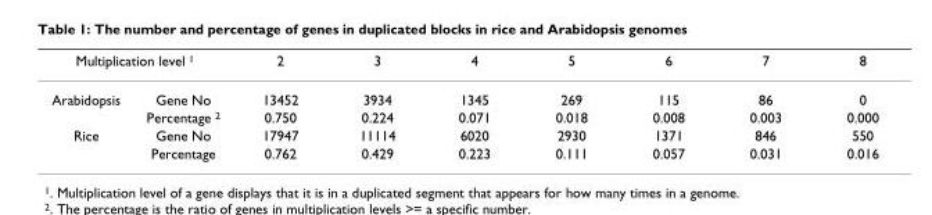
<table><thead><tr><td colspan="2">Multiplication level <sup>1</sup></td><td rowspan="2">2 13452</td><td rowspan="2">3 3934</td><td rowspan="2">4 1345</td><td rowspan="2">5 269</td><td rowspan="2">6 115</td><td rowspan="2">7 86</td><td rowspan="2">8 0</td></tr><tr><td>Arabidopsis</td><td>Gene No</td></tr></thead><tbody><tr><td></td><td>Percentage <sup>2</sup></td><td>0.750</td><td>0.224</td><td>0.071</td><td>0.018</td><td>0.008</td><td>0.003</td><td>0.000</td></tr><tr><td rowspan="2">Rice</td><td>Gene No</td><td>17947</td><td>11114</td><td>6020</td><td>2930</td><td>1371</td><td>846</td><td>550</td></tr><tr><td>Percentage</td><td>0.762</td><td>0.429</td><td>0.223</td><td>0.111</td><td>0.057</td><td>0.031</td><td>0.016</td></tr></tbody></table>